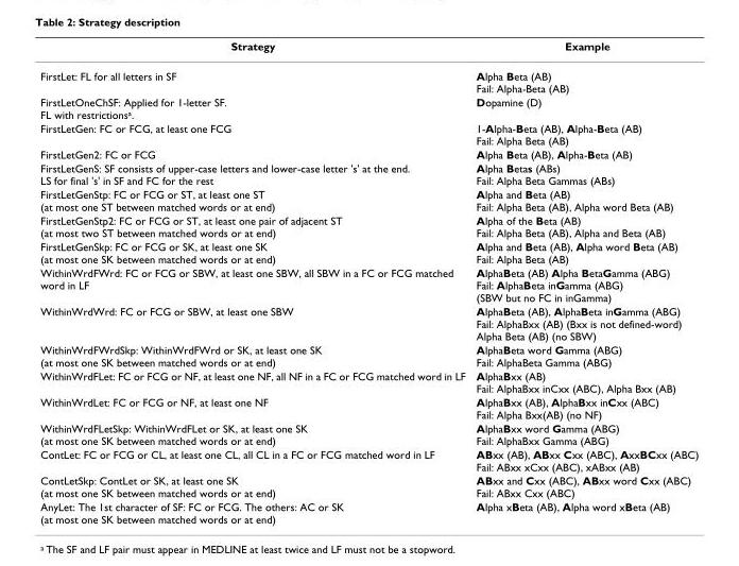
<table><thead><tr><td>Strategy</td><td>Example</td></tr></thead><tbody><tr><td>FirstLet: FL for all letters in SF</td><td>Alpha Beta (AB) Fail: Alpha-Beta (AB)</td></tr><tr><td>FirstLetOneChSF: Applied for 1-letter SF. FL with restrictions<sup>a</sup>.</td><td>Dopamine (D)</td></tr><tr><td>FirstLetGen: FC or FCG, at least one FCG</td><td>1-Alpha-Beta (AB), Alpha-Beta (AB) Fail: Alpha Beta (AB)</td></tr><tr><td>FirstLetGen2: FC or FCG</td><td>Alpha Beta (AB), Alpha-Beta (AB)</td></tr><tr><td>FirstLetGenS: SF consists of upper-case letters and lower-case letter &#x27;s&#x27; at the end. LS for final &#x27;s&#x27; in SF and FC for the rest</td><td>Alpha Betas (ABs) Fail: Alpha Beta Gammas (ABs)</td></tr><tr><td>FirstLetGenStp: FC or FCG or ST, at least one ST (at most one ST between matched words or at end)</td><td>Alpha and Beta (AB) Fail: Alpha Beta (AB), Alpha word Beta (AB)</td></tr><tr><td>FirstLetGenStp2: FC or FCG or ST, at least one pair of adjacent ST (at most two ST between matched words or at end)</td><td>Alpha of the Beta (AB) Fail: Alpha Beta (AB), Alpha and Beta (AB)</td></tr><tr><td>FirstLetGenSkp: FC or FCG or SK, at least one SK (at most one SK between matched words or at end)</td><td>Alpha and Beta (AB), Alpha word Beta (AB) Fail: Alpha Beta (AB)</td></tr><tr><td>WithinWrdFWrd: FC or FCG or SBW, at least one SBW, all SBW in a FC or FCG matched word in LF</td><td>AlphaBeta (AB) Alpha BetaGamma (ABG) Fail: AlphaBeta inGamma (ABG) (SBW but no FC in inGamma)</td></tr><tr><td>WithinWrdWrd: FC or FCG or SBW, at least one SBW</td><td>AlphaBeta (AB), AlphaBeta inGamma (ABG) Fail: AlphaBxx (AB) (Bxx is not defined-word) Alpha Beta (AB) (no SBW)</td></tr><tr><td>WithinWrdFWrdSkp: WithinWrdFWrd or SK, at least one SK (at most one SK between matched words or at end)</td><td>AlphaBeta word Gamma (ABG) Fail: AlphaBeta Gamma (ABG)</td></tr><tr><td>WithinWrdFLet: FC or FCG or NF, at least one NF, all NF in a FC or FCG matched word in LF</td><td>AlphaBxx (AB) Fail: AlphaBxx inCxx (ABC), Alpha Bxx (AB)</td></tr><tr><td>WithinWrdLet: FC or FCG or NF, at least one NF</td><td>AlphaBxx (AB), AlphaBxx inCxx (ABC) Fail: Alpha Bxx(AB) (no NF)</td></tr><tr><td>WithinWrdFLetSkp: WithinWrdFLet or SK, at least one SK (at most one SK between matched words or at end)</td><td>AlphaBxx word Gamma (ABG) Fail: AlphaBxx Gamma (ABG)</td></tr><tr><td>ContLet: FC or FCG or CL, at least one CL, all CL in a FC or FCG matched word in LF</td><td>ABxx (AB), ABxx Cxx (ABC), AxxBCxx (ABC) Fail: ABxx xCxx (ABC), xABxx (AB)</td></tr><tr><td>ContLetSkp: ContLet or SK, at least one SK (at most one SK between matched words or at end)</td><td>ABxx and Cxx (ABC), ABxx word Cxx (ABC) Fail: ABxx Cxx (ABC)</td></tr><tr><td>AnyLet: The 1st character of SF: FC or FCG. The others: AC or SK (at most one SK between matched words or at end)</td><td>Alpha xBeta (AB), Alpha word xBeta (AB)</td></tr></tbody></table>